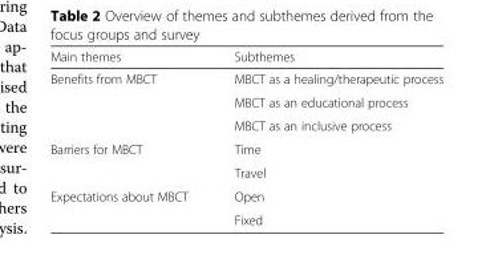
<table><thead><tr><td>Main themes</td><td>Subthemes</td></tr></thead><tbody><tr><td rowspan="3">Benefits from MBCT</td><td>MBCT as a healing/therapeutic process</td></tr><tr><td>MBCT as an educational process</td></tr><tr><td>MBCT as an inclusive process</td></tr><tr><td rowspan="2">Barriers for MBCT</td><td>Time</td></tr><tr><td>Travel</td></tr><tr><td rowspan="2">Expectations about MBCT</td><td>Open</td></tr><tr><td>Fixed</td></tr></tbody></table>